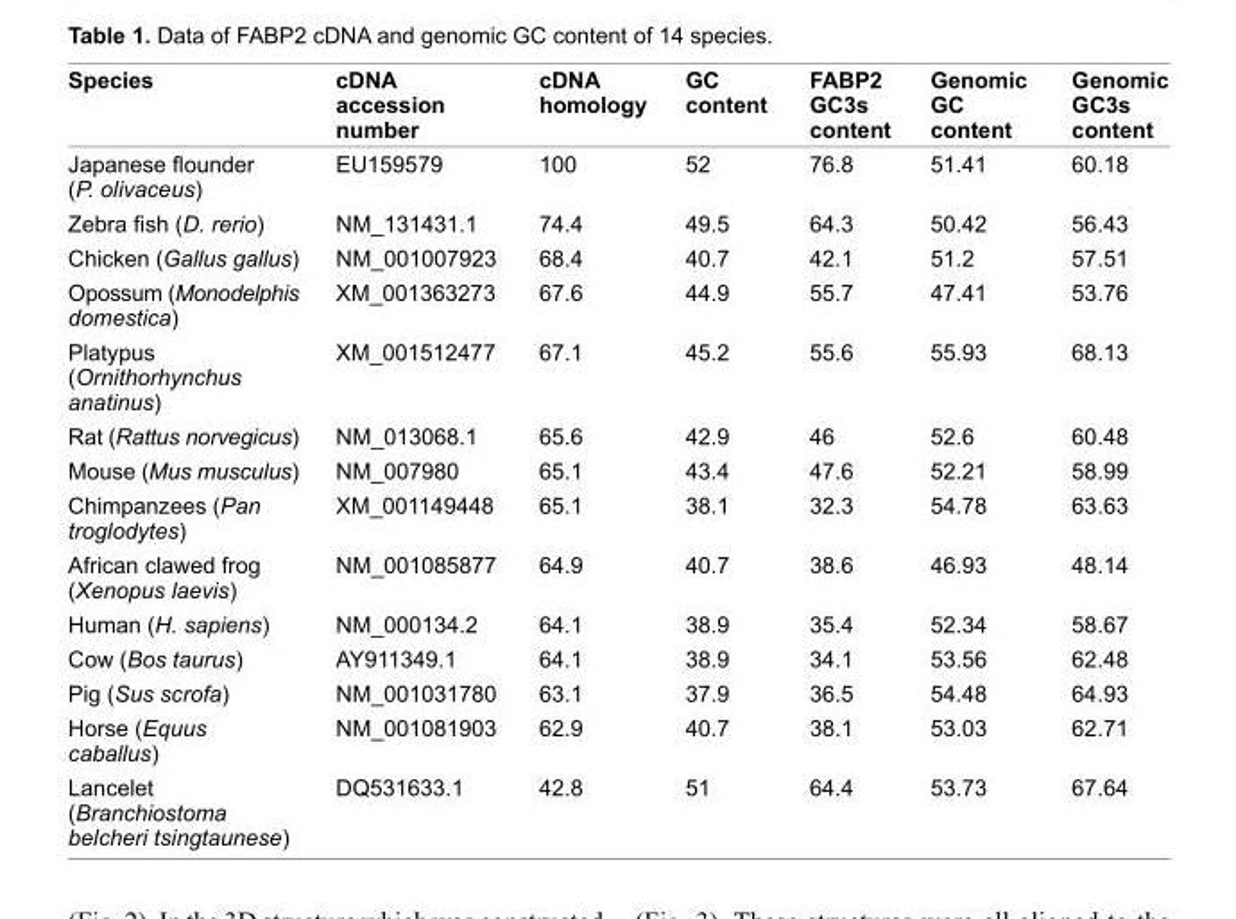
<table><thead><tr><td>Species</td><td>cDNA accession number</td><td>cDNA homology</td><td>GC content</td><td>FABP2 GC3s content</td><td>Genomic GC content</td><td>Genomic GC3s content</td></tr></thead><tbody><tr><td>Japanese fl ounder (P. olivaceus)</td><td>EU159579</td><td>100</td><td>52</td><td>76.8</td><td>51.41</td><td>60.18</td></tr><tr><td>Zebra fi sh (D. rerio)</td><td>NM_131431.1</td><td>74.4</td><td>49.5</td><td>64.3</td><td>50.42</td><td>56.43</td></tr><tr><td>Chicken (Gallus gallus)</td><td>NM_001007923</td><td>68.4</td><td>40.7</td><td>42.1</td><td>51.2</td><td>57.51</td></tr><tr><td>Opossum (Monodelphis domestica)</td><td>XM_001363273</td><td>67.6</td><td>44.9</td><td>55.7</td><td>47.41</td><td>53.76</td></tr><tr><td>Platypus (Ornithorhynchus anatinus)</td><td>XM_001512477</td><td>67.1</td><td>45.2</td><td>55.6</td><td>55.93</td><td>68.13</td></tr><tr><td>Rat (Rattus norvegicus)</td><td>NM_013068.1</td><td>65.6</td><td>42.9</td><td>46</td><td>52.6</td><td>60.48</td></tr><tr><td>Mouse (Mus musculus)</td><td>NM_007980</td><td>65.1</td><td>43.4</td><td>47.6</td><td>52.21</td><td>58.99</td></tr><tr><td>Chimpanzees (Pan troglodytes)</td><td>XM_001149448</td><td>65.1</td><td>38.1</td><td>32.3</td><td>54.78</td><td>63.63</td></tr><tr><td>African clawed frog (Xenopus laevis)</td><td>NM_001085877</td><td>64.9</td><td>40.7</td><td>38.6</td><td>46.93</td><td>48.14</td></tr><tr><td>Human (H. sapiens)</td><td>NM_000134.2</td><td>64.1</td><td>38.9</td><td>35.4</td><td>52.34</td><td>58.67</td></tr><tr><td>Cow (Bos taurus)</td><td>AY911349.1</td><td>64.1</td><td>38.9</td><td>34.1</td><td>53.56</td><td>62.48</td></tr><tr><td>Pig (Sus scrofa)</td><td>NM_001031780</td><td>63.1</td><td>37.9</td><td>36.5</td><td>54.48</td><td>64.93</td></tr><tr><td>Horse (Equus caballus)</td><td>NM_001081903</td><td>62.9</td><td>40.7</td><td>38.1</td><td>53.03</td><td>62.71</td></tr><tr><td>Lancelet (Branchiostoma belcheri tsingtaunese)</td><td>DQ531633.1</td><td>42.8</td><td>51</td><td>64.4</td><td>53.73</td><td>67.64</td></tr></tbody></table>